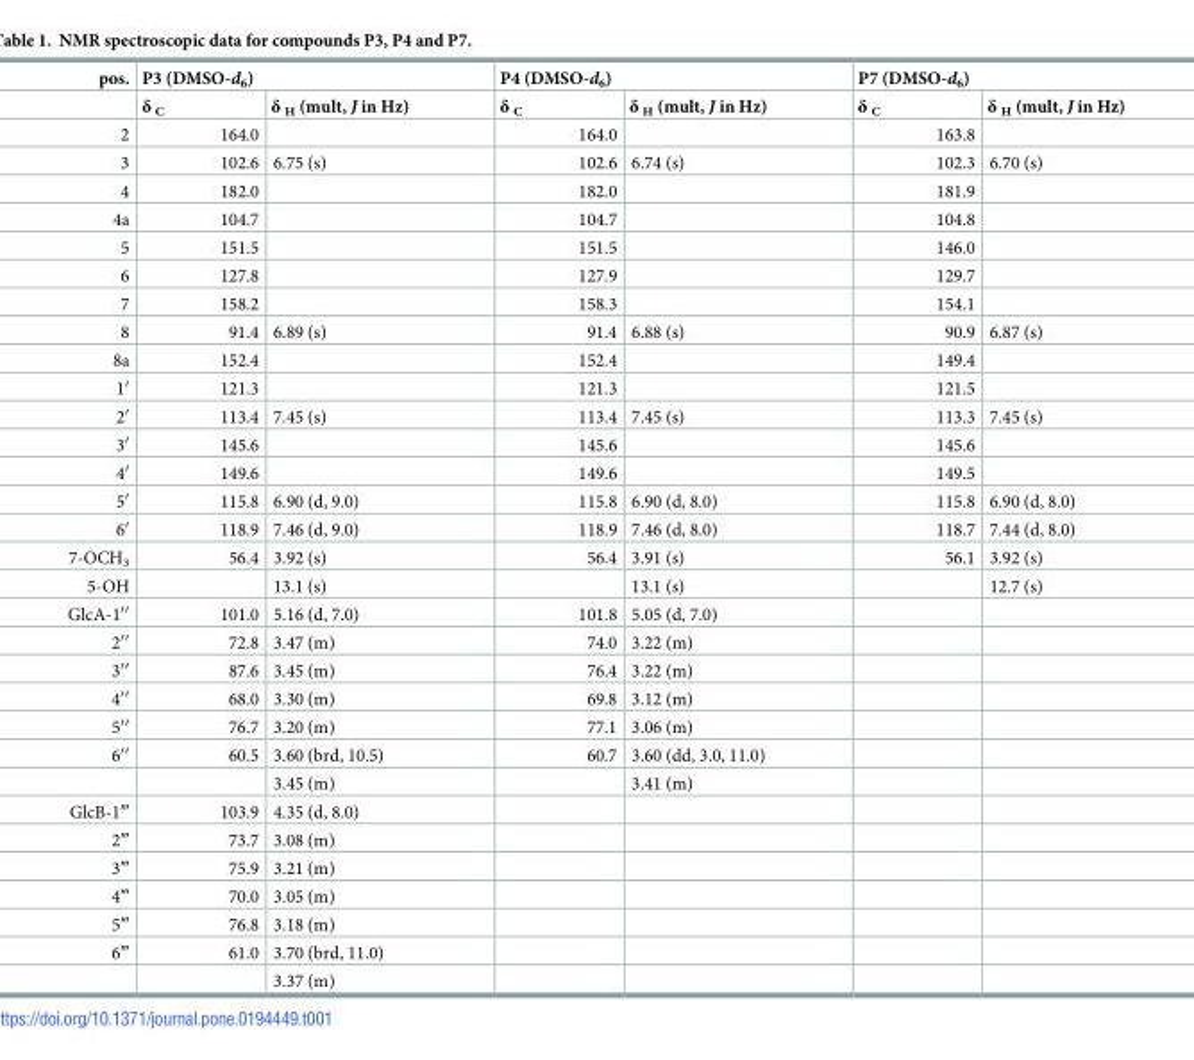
<table><thead><tr><td rowspan="2">pos.</td><td colspan="2">P3 (DMSO-d<sub>6</sub>)</td><td colspan="2">P4 (DMSO-d<sub>6</sub>)</td><td colspan="2">P7 (DMSO-d<sub>6</sub>)</td></tr><tr><td>δ <sub>C</sub></td><td>δ <sub>H</sub> (mult, J in Hz)</td><td>δ <sub>C</sub></td><td>δ <sub>H</sub> (mult, J in Hz)</td><td>δ <sub>C</sub></td><td>δ <sub>H</sub> (mult, J in Hz)</td></tr></thead><tbody><tr><td>2</td><td>164.0</td><td></td><td>164.0</td><td></td><td>163.8</td><td></td></tr><tr><td>3</td><td>102.6</td><td>6.75 (s)</td><td>102.6</td><td>6.74 (s)</td><td>102.3</td><td>6.70 (s)</td></tr><tr><td>4</td><td>182.0</td><td></td><td>182.0</td><td></td><td>181.9</td><td></td></tr><tr><td>4a</td><td>104.7</td><td></td><td>104.7</td><td></td><td>104.8</td><td></td></tr><tr><td>5</td><td>151.5</td><td></td><td>151.5</td><td></td><td>146.0</td><td></td></tr><tr><td>6</td><td>127.8</td><td></td><td>127.9</td><td></td><td>129.7</td><td></td></tr><tr><td>7</td><td>158.2</td><td></td><td>158.3</td><td></td><td>154.1</td><td></td></tr><tr><td>8</td><td>91.4</td><td>6.89 (s)</td><td>91.4</td><td>6.88 (s)</td><td>90.9</td><td>6.87 (s)</td></tr><tr><td>8a</td><td>152.4</td><td></td><td>152.4</td><td></td><td>149.4</td><td></td></tr><tr><td>10</td><td>121.3</td><td></td><td>121.3</td><td></td><td>121.5</td><td></td></tr><tr><td>20</td><td>113.4</td><td>7.45 (s)</td><td>113.4</td><td>7.45 (s)</td><td>113.3</td><td>7.45 (s)</td></tr><tr><td>30</td><td>145.6</td><td></td><td>145.6</td><td></td><td>145.6</td><td></td></tr><tr><td>40</td><td>149.6</td><td></td><td>149.6</td><td></td><td>149.5</td><td></td></tr><tr><td>50</td><td>115.8</td><td>6.90 (d, 9.0)</td><td>115.8</td><td>6.90 (d, 8.0)</td><td>115.8</td><td>6.90 (d, 8.0)</td></tr><tr><td>60</td><td>118.9</td><td>7.46 (d, 9.0)</td><td>118.9</td><td>7.46 (d, 8.0)</td><td>118.7</td><td>7.44 (d, 8.0)</td></tr><tr><td>7-OCH<sub>3</sub></td><td>56.4</td><td>3.92 (s)</td><td>56.4</td><td>3.91 (s)</td><td>56.1</td><td>3.92 (s)</td></tr><tr><td>5-OH</td><td></td><td>13.1 (s)</td><td></td><td>13.1 (s)</td><td></td><td>12.7 (s)</td></tr><tr><td>GlcA-100</td><td>101.0</td><td>5.16 (d, 7.0)</td><td>101.8</td><td>5.05 (d, 7.0)</td><td></td><td></td></tr><tr><td>200</td><td>72.8</td><td>3.47 (m)</td><td>74.0</td><td>3.22 (m)</td><td></td><td></td></tr><tr><td>300</td><td>87.6</td><td>3.45 (m)</td><td>76.4</td><td>3.22 (m)</td><td></td><td></td></tr><tr><td>400</td><td>68.0</td><td>3.30 (m)</td><td>69.8</td><td>3.12 (m)</td><td></td><td></td></tr><tr><td>500</td><td>76.7</td><td>3.20 (m)</td><td>77.1</td><td>3.06 (m)</td><td></td><td></td></tr><tr><td rowspan="2">600</td><td>60.5</td><td>3.60 (brd, 10.5)</td><td>60.7</td><td>3.60 (dd, 3.0, 11.0)</td><td></td><td></td></tr><tr><td></td><td>3.45 (m)</td><td></td><td>3.41 (m)</td><td></td><td></td></tr><tr><td>GlcB-1‴</td><td>103.9</td><td>4.35 (d, 8.0)</td><td></td><td></td><td></td><td></td></tr><tr><td>2‴</td><td>73.7</td><td>3.08 (m)</td><td></td><td></td><td></td><td></td></tr><tr><td>3‴</td><td>75.9</td><td>3.21 (m)</td><td></td><td></td><td></td><td></td></tr><tr><td>4‴</td><td>70.0</td><td>3.05 (m)</td><td></td><td></td><td></td><td></td></tr><tr><td>5‴</td><td>76.8</td><td>3.18 (m)</td><td></td><td></td><td></td><td></td></tr><tr><td rowspan="2">6‴</td><td>61.0</td><td>3.70 (brd, 11.0)</td><td></td><td></td><td></td><td></td></tr><tr><td></td><td>3.37 (m)</td><td></td><td></td><td></td><td></td></tr></tbody></table>